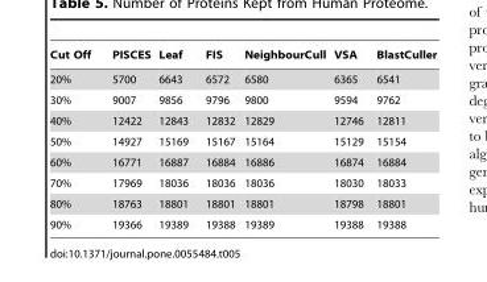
<table><thead><tr><td>Cut Off</td><td>PISCES</td><td>Leaf</td><td>FIS</td><td>NeighbourCull</td><td>VSA</td><td>BlastCuller</td></tr></thead><tbody><tr><td>20%</td><td>5700</td><td>6643</td><td>6572</td><td>6580</td><td>6365</td><td>6541</td></tr><tr><td>30%</td><td>9007</td><td>9856</td><td>9796</td><td>9800</td><td>9594</td><td>9762</td></tr><tr><td>40%</td><td>12422</td><td>12843</td><td>12832</td><td>12829</td><td>12746</td><td>12811</td></tr><tr><td>50%</td><td>14927</td><td>15169</td><td>15167</td><td>15164</td><td>15129</td><td>15154</td></tr><tr><td>60%</td><td>16771</td><td>16887</td><td>16884</td><td>16886</td><td>16874</td><td>16884</td></tr><tr><td>70%</td><td>17969</td><td>18036</td><td>18036</td><td>18036</td><td>18030</td><td>18033</td></tr><tr><td>80%</td><td>18763</td><td>18801</td><td>18801</td><td>18801</td><td>18798</td><td>18801</td></tr><tr><td>90%</td><td>19366</td><td>19389</td><td>19388</td><td>19389</td><td>19388</td><td>19388</td></tr></tbody></table>